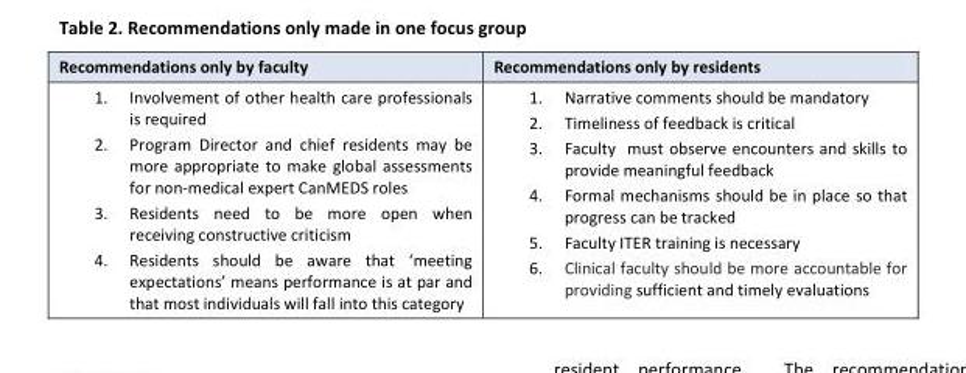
<table><thead><tr><td>Recommendations only by faculty</td><td>Recommendations only by residents</td></tr></thead><tbody><tr><td>1. Involvement of other health care professionals is required 2. Program Director and chief residents may be more appropriate to make global assessments for non-medical expert CanMEDS roles 3. Residents need to be more open when receiving constructive criticism 4. Residents should be aware that ‘meeting expectations’ means performance is at par and that most individuals will fall into this category</td><td>1. Narrative comments should be mandatory 2. Timeliness of feedback is critical 3. Faculty must observe encounters and skills to provide meaningful feedback 4. Formal mechanisms should be in place so that progress can be tracked 5. Faculty ITER training is necessary 6. Clinical faculty should be more accountable for providing sufficient and timely evaluations</td></tr></tbody></table>